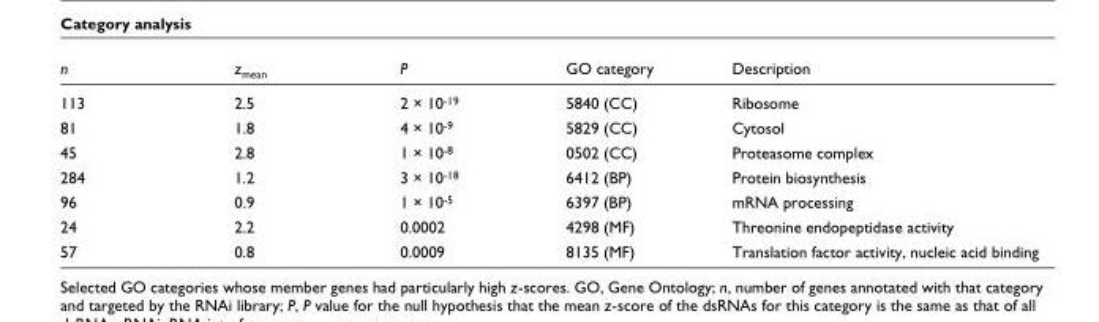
<table><thead><tr><td>n</td><td>zmean</td><td>P</td><td>GO category</td><td>Description</td></tr></thead><tbody><tr><td>113</td><td>2.5</td><td>2 × 10-19</td><td>5840 (CC)</td><td>Ribosome</td></tr><tr><td>81</td><td>1.8</td><td>4 × 10-9</td><td>5829 (CC)</td><td>Cytosol</td></tr><tr><td>45</td><td>2.8</td><td>1 × 10-8</td><td>0502 (CC)</td><td>Proteasome complex</td></tr><tr><td>284</td><td>1.2</td><td>3 × 10-18</td><td>6412 (BP)</td><td>Protein biosynthesis</td></tr><tr><td>96</td><td>0.9</td><td>1 × 10-5</td><td>6397 (BP)</td><td>mRNA processing</td></tr><tr><td>24</td><td>2.2</td><td>0.0002</td><td>4298 (MF)</td><td>Threonine endopeptidase activity</td></tr><tr><td>57</td><td>0.8</td><td>0.0009</td><td>8135 (MF)</td><td>Translation factor activity, nucleic acid binding</td></tr></tbody></table>